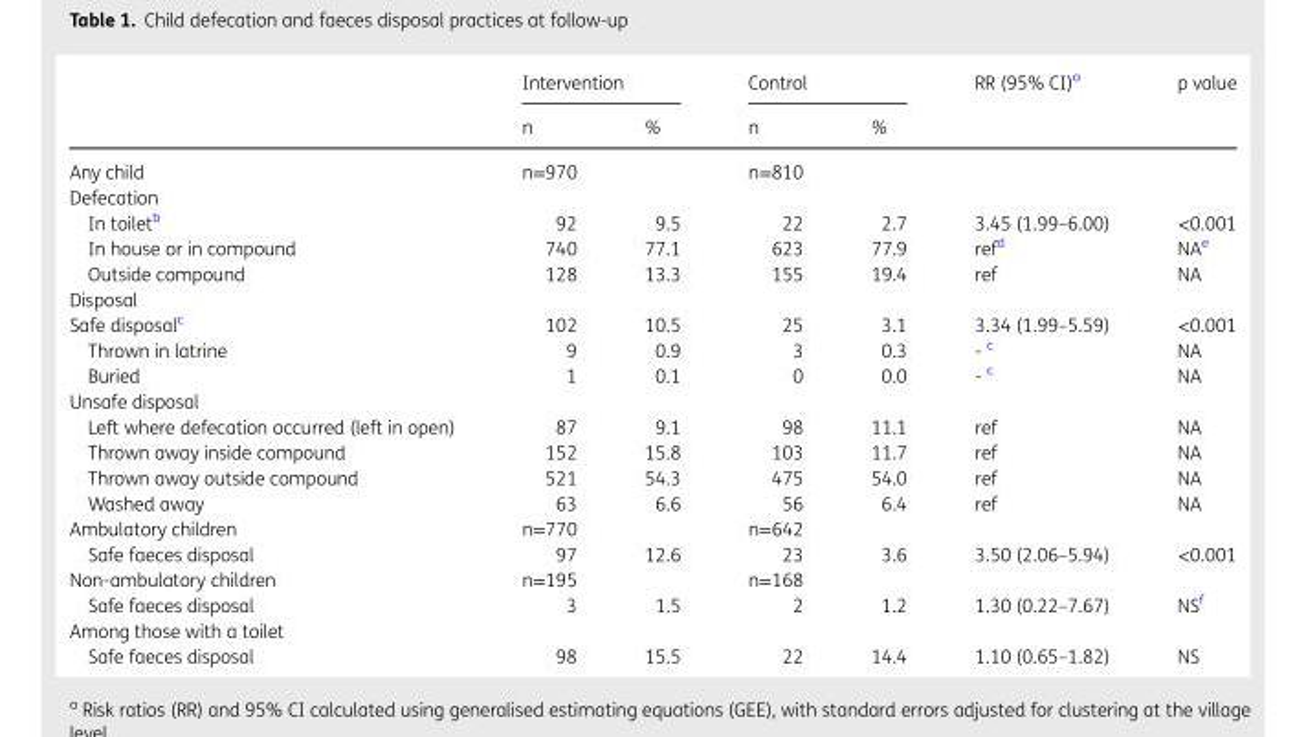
<table><thead><tr><td rowspan="2"></td><td colspan="2">Intervention</td><td colspan="2">Control</td><td rowspan="2">RR (95% CI)<sup>a</sup></td><td rowspan="2">p value</td></tr><tr><td>n</td><td>%</td><td>n</td><td>%</td></tr></thead><tbody><tr><td>Any child</td><td>n=970</td><td></td><td>n=810</td><td></td><td></td><td></td></tr><tr><td colspan="7">Defecation</td></tr><tr><td>In toilet<sup>b</sup></td><td>92</td><td>9.5</td><td>22</td><td>2.7</td><td>3.45 (1.99–6.00)</td><td>&lt;0.001</td></tr><tr><td>In house or in compound</td><td>740</td><td>77.1</td><td>623</td><td>77.9</td><td>ref<sup>d</sup></td><td>NA<sup>e</sup></td></tr><tr><td>Outside compound</td><td>128</td><td>13.3</td><td>155</td><td>19.4</td><td>ref</td><td>NA</td></tr><tr><td colspan="7">Disposal</td></tr><tr><td>Safe disposal<sup>c</sup></td><td>102</td><td>10.5</td><td>25</td><td>3.1</td><td>3.34 (1.99–5.59)</td><td>&lt;0.001</td></tr><tr><td>Thrown in latrine</td><td>9</td><td>0.9</td><td>3</td><td>0.3</td><td>- <sup>c</sup></td><td>NA</td></tr><tr><td>Buried</td><td>1</td><td>0.1</td><td>0</td><td>0.0</td><td>- <sup>c</sup></td><td>NA</td></tr><tr><td colspan="7">Unsafe disposal</td></tr><tr><td>Left where defecation occurred (left in open)</td><td>87</td><td>9.1</td><td>98</td><td>11.1</td><td>ref</td><td>NA</td></tr><tr><td>Thrown away inside compound</td><td>152</td><td>15.8</td><td>103</td><td>11.7</td><td>ref</td><td>NA</td></tr><tr><td>Thrown away outside compound</td><td>521</td><td>54.3</td><td>475</td><td>54.0</td><td>ref</td><td>NA</td></tr><tr><td>Washed away</td><td>63</td><td>6.6</td><td>56</td><td>6.4</td><td>ref</td><td>NA</td></tr><tr><td>Ambulatory children</td><td>n=770</td><td></td><td>n=642</td><td></td><td></td><td></td></tr><tr><td>Safe faeces disposal</td><td>97</td><td>12.6</td><td>23</td><td>3.6</td><td>3.50 (2.06–5.94)</td><td>&lt;0.001</td></tr><tr><td>Non-ambulatory children</td><td>n=195</td><td></td><td>n=168</td><td></td><td></td><td></td></tr><tr><td>Safe faeces disposal</td><td>3</td><td>1.5</td><td>2</td><td>1.2</td><td>1.30 (0.22–7.67)</td><td>NS<sup>f</sup></td></tr><tr><td colspan="7">Among those with a toilet</td></tr><tr><td>Safe faeces disposal</td><td>98</td><td>15.5</td><td>22</td><td>14.4</td><td>1.10 (0.65–1.82)</td><td>NS</td></tr></tbody></table>